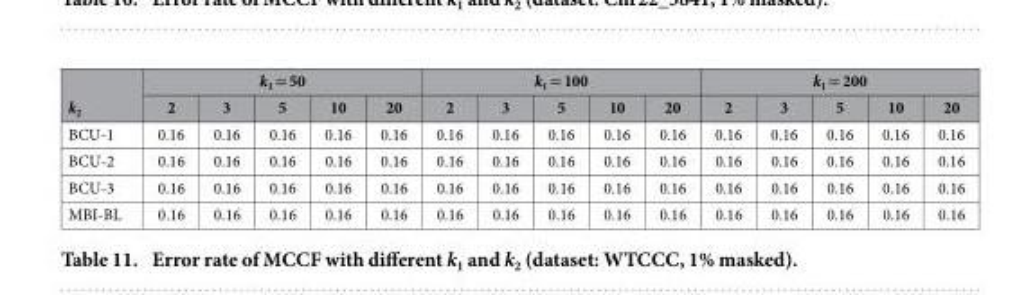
<table><thead><tr><td rowspan="2">k<sub>2</sub></td><td colspan="5">k<sub>1</sub> = 50</td><td colspan="5">k<sub>1</sub> = 100</td><td colspan="5">k<sub>1</sub> = 200</td></tr><tr><td>2</td><td>3</td><td>5</td><td>10</td><td>20</td><td>2</td><td>3</td><td>5</td><td>10</td><td>20</td><td>2</td><td>3</td><td>5</td><td>10</td><td>20</td></tr></thead><tbody><tr><td>BCU-1</td><td>0.16</td><td>0.16</td><td>0.16</td><td>0.16</td><td>0.16</td><td>0.16</td><td>0.16</td><td>0.16</td><td>0.16</td><td>0.16</td><td>0.16</td><td>0.16</td><td>0.16</td><td>0.16</td><td>0.16</td></tr><tr><td>BCU-2</td><td>0.16</td><td>0.16</td><td>0.16</td><td>0.16</td><td>0.16</td><td>0.16</td><td>0.16</td><td>0.16</td><td>0.16</td><td>0.16</td><td>0.16</td><td>0.16</td><td>0.16</td><td>0.16</td><td>0.16</td></tr><tr><td>BCU-3</td><td>0.16</td><td>0.16</td><td>0.16</td><td>0.16</td><td>0.16</td><td>0.16</td><td>0.16</td><td>0.16</td><td>0.16</td><td>0.16</td><td>0.16</td><td>0.16</td><td>0.16</td><td>0.16</td><td>0.16</td></tr><tr><td>MBI-BL</td><td>0.16</td><td>0.16</td><td>0.16</td><td>0.16</td><td>0.16</td><td>0.16</td><td>0.16</td><td>0.16</td><td>0.16</td><td>0.16</td><td>0.16</td><td>0.16</td><td>0.16</td><td>0.16</td><td>0.16</td></tr></tbody></table>